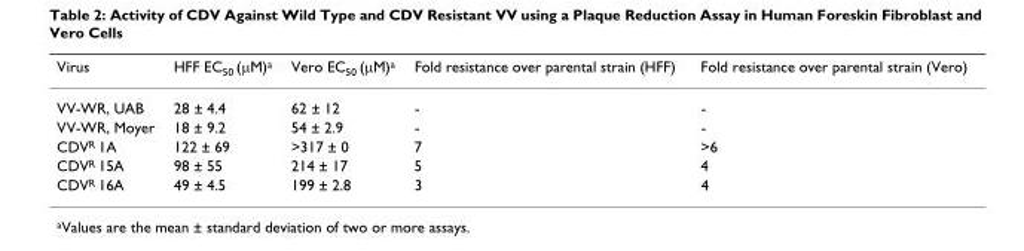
<table><thead><tr><td>Virus</td><td>HFF EC<sub>50</sub> (μM)<sup>a</sup></td><td>Vero EC<sub>50</sub> (μM)<sup>a</sup></td><td>Fold resistance over parental strain (HFF)</td><td>Fold resistance over parental strain (Vero)</td></tr></thead><tbody><tr><td>VV-WR, UAB</td><td>28 ± 4.4</td><td>62 ± 12</td><td>-</td><td>-</td></tr><tr><td>VV-WR, Moyer</td><td>18 ± 9.2</td><td>54 ± 2.9</td><td>-</td><td>-</td></tr><tr><td>CDV<sup>R</sup> 1A</td><td>122 ± 69</td><td>&gt;317 ± 0</td><td>7</td><td>&gt;6</td></tr><tr><td>CDV<sup>R</sup> 15A</td><td>98 ± 55</td><td>214 ± 17</td><td>5</td><td>4</td></tr><tr><td>CDV<sup>R</sup> 16A</td><td>49 ± 4.5</td><td>199 ± 2.8</td><td>3</td><td>4</td></tr></tbody></table>